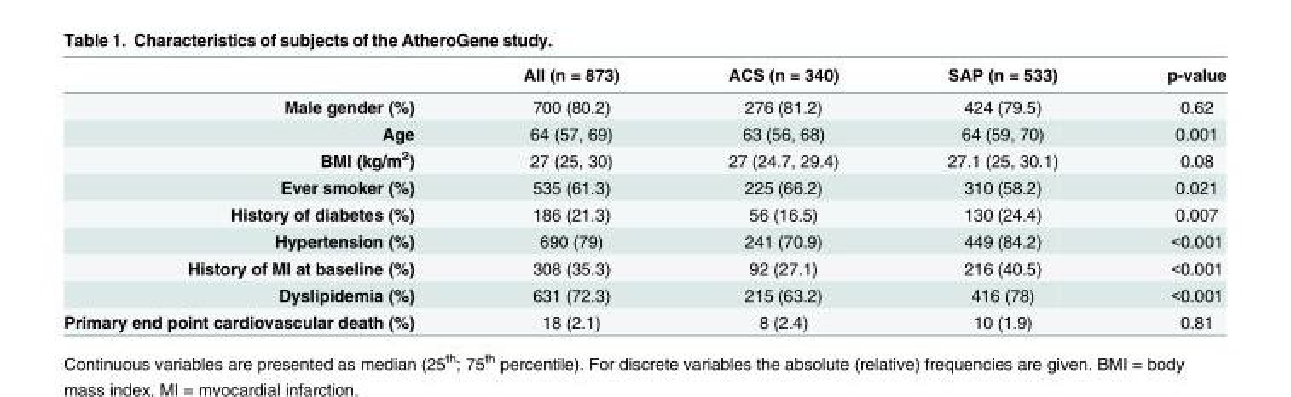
<table><thead><tr><td></td><td>All (n = 873)</td><td>ACS (n = 340)</td><td>SAP (n = 533)</td><td>p-value</td></tr></thead><tbody><tr><td>Male gender (%)</td><td>700 (80.2)</td><td>276 (81.2)</td><td>424 (79.5)</td><td>0.62</td></tr><tr><td>Age</td><td>64 (57, 69)</td><td>63 (56, 68)</td><td>64 (59, 70)</td><td>0.001</td></tr><tr><td>BMI (kg/m<sup>2</sup>)</td><td>27 (25, 30)</td><td>27 (24.7, 29.4)</td><td>27.1 (25, 30.1)</td><td>0.08</td></tr><tr><td>Ever smoker (%)</td><td>535 (61.3)</td><td>225 (66.2)</td><td>310 (58.2)</td><td>0.021</td></tr><tr><td>History of diabetes (%)</td><td>186 (21.3)</td><td>56 (16.5)</td><td>130 (24.4)</td><td>0.007</td></tr><tr><td>Hypertension (%)</td><td>690 (79)</td><td>241 (70.9)</td><td>449 (84.2)</td><td>&lt;0.001</td></tr><tr><td>History of MI at baseline (%)</td><td>308 (35.3)</td><td>92 (27.1)</td><td>216 (40.5)</td><td>&lt;0.001</td></tr><tr><td>Dyslipidemia (%)</td><td>631 (72.3)</td><td>215 (63.2)</td><td>416 (78)</td><td>&lt;0.001</td></tr><tr><td>Primary end point cardiovascular death (%)</td><td>18 (2.1)</td><td>8 (2.4)</td><td>10 (1.9)</td><td>0.81</td></tr></tbody></table>